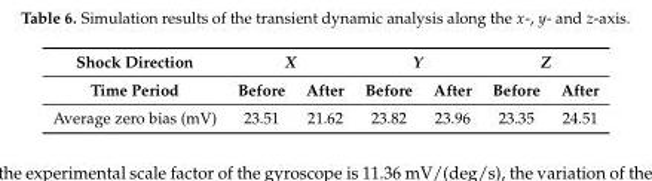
<table><thead><tr><td rowspan="2">Shock Direction Time Period</td><td colspan="2">X</td><td colspan="2">Y</td><td colspan="2">Z</td></tr><tr><td>Before</td><td>After</td><td>Before</td><td>After</td><td>Before</td><td>After</td></tr></thead><tbody><tr><td>Average zero bias (mV)</td><td>23.51</td><td>21.62</td><td>23.82</td><td>23.96</td><td>23.35</td><td>24.51</td></tr></tbody></table>